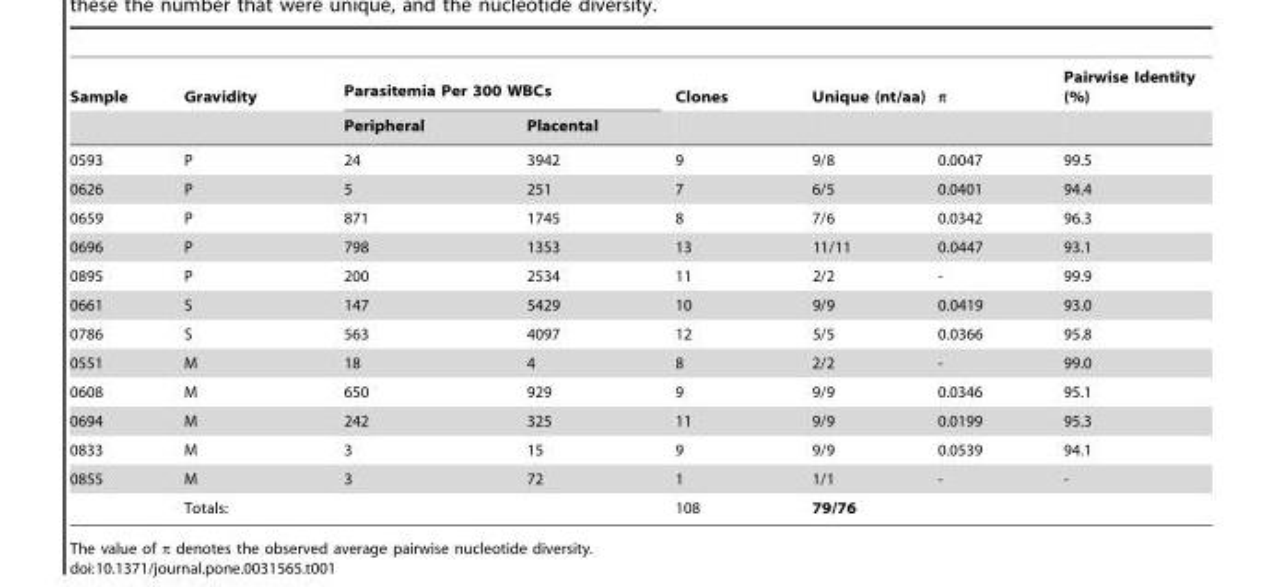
<table><thead><tr><td rowspan="2">Sample</td><td rowspan="2">Gravidity</td><td colspan="2">Parasitemia Per 300 WBCs</td><td rowspan="2">Clones</td><td rowspan="2">Unique (nt/aa)</td><td rowspan="2">π</td><td rowspan="2">Pairwise Identity (%)</td></tr><tr><td>Peripheral</td><td>Placental</td></tr></thead><tbody><tr><td>0593</td><td>P</td><td>24</td><td>3942</td><td>9</td><td>9/8</td><td>0.0047</td><td>99.5</td></tr><tr><td>0626</td><td>P</td><td>5</td><td>251</td><td>7</td><td>6/5</td><td>0.0401</td><td>94.4</td></tr><tr><td>0659</td><td>P</td><td>871</td><td>1745</td><td>8</td><td>7/6</td><td>0.0342</td><td>96.3</td></tr><tr><td>0696</td><td>P</td><td>798</td><td>1353</td><td>13</td><td>11/11</td><td>0.0447</td><td>93.1</td></tr><tr><td>0895</td><td>P</td><td>200</td><td>2534</td><td>11</td><td>2/2</td><td>-</td><td>99.9</td></tr><tr><td>0661</td><td>S</td><td>147</td><td>5429</td><td>10</td><td>9/9</td><td>0.0419</td><td>93.0</td></tr><tr><td>0786</td><td>S</td><td>563</td><td>4097</td><td>12</td><td>5/5</td><td>0.0366</td><td>95.8</td></tr><tr><td>0551</td><td>M</td><td>18</td><td>4</td><td>8</td><td>2/2</td><td>-</td><td>99.0</td></tr><tr><td>0608</td><td>M</td><td>650</td><td>929</td><td>9</td><td>9/9</td><td>0.0346</td><td>95.1</td></tr><tr><td>0694</td><td>M</td><td>242</td><td>325</td><td>11</td><td>9/9</td><td>0.0199</td><td>95.3</td></tr><tr><td>0833</td><td>M</td><td>3</td><td>15</td><td>9</td><td>9/9</td><td>0.0539</td><td>94.1</td></tr><tr><td rowspan="2">0855</td><td>M</td><td>3</td><td>72</td><td>1</td><td>1/1</td><td>-</td><td>-</td></tr><tr><td>Totals:</td><td></td><td></td><td>108</td><td>79/76</td><td></td><td></td></tr></tbody></table>